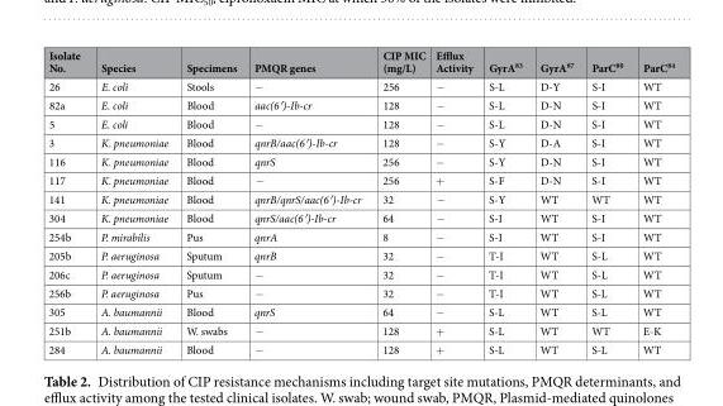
<table><thead><tr><td>Isolate No.</td><td>Species</td><td>Specimens</td><td>PMQR genes</td><td>CIP MIC (mg/L)</td><td>Efflux Activity</td><td>GyrA<sup>83</sup></td><td>GyrA<sup>87</sup></td><td>ParC<sup>80</sup></td><td>ParC<sup>84</sup></td></tr></thead><tbody><tr><td>26</td><td>E. coli</td><td>Stools</td><td>−</td><td>256</td><td>−</td><td>S-L</td><td>D-Y</td><td>S-I</td><td>WT</td></tr><tr><td>82a</td><td>E. coli</td><td>Blood</td><td>aac(6′)-Ib-cr</td><td>128</td><td>−</td><td>S-L</td><td>D-N</td><td>S-I</td><td>WT</td></tr><tr><td>5</td><td>E. coli</td><td>Blood</td><td>−</td><td>128</td><td>−</td><td>S-L</td><td>D-N</td><td>S-I</td><td>WT</td></tr><tr><td>3</td><td>K. pneumoniae</td><td>Blood</td><td>qnrB/aac(6′)-Ib-cr</td><td>128</td><td>−</td><td>S-Y</td><td>D-A</td><td>S-I</td><td>WT</td></tr><tr><td>116</td><td>K. pneumoniae</td><td>Blood</td><td>qnrS</td><td>256</td><td>−</td><td>S-Y</td><td>D-N</td><td>S-I</td><td>WT</td></tr><tr><td>117</td><td>K. pneumoniae</td><td>Blood</td><td>−</td><td>256</td><td>+</td><td>S-F</td><td>D-N</td><td>S-I</td><td>WT</td></tr><tr><td>141</td><td>K. pneumoniae</td><td>Blood</td><td>qnrB/qnrS/aac(6′)-Ib-cr</td><td>32</td><td>−</td><td>S-Y</td><td>WT</td><td>WT</td><td>WT</td></tr><tr><td>304</td><td>K. pneumoniae</td><td>Blood</td><td>qnrS/aac(6′)-Ib-cr</td><td>64</td><td>−</td><td>S-I</td><td>WT</td><td>S-I</td><td>WT</td></tr><tr><td>254b</td><td>P. mirabilis</td><td>Pus</td><td>qnrA</td><td>8</td><td>−</td><td>S-I</td><td>WT</td><td>S-I</td><td>WT</td></tr><tr><td>205b</td><td>P. aeruginosa</td><td>Sputum</td><td>qnrB</td><td>32</td><td>−</td><td>T-I</td><td>WT</td><td>S-L</td><td>WT</td></tr><tr><td>206c</td><td>P. aeruginosa</td><td>Sputum</td><td>−</td><td>32</td><td>−</td><td>T-I</td><td>WT</td><td>S-L</td><td>WT</td></tr><tr><td>256b</td><td>P. aeruginosa</td><td>Pus</td><td>−</td><td>32</td><td>−</td><td>T-I</td><td>WT</td><td>S-L</td><td>WT</td></tr><tr><td>305</td><td>A. baumannii</td><td>Blood</td><td>qnrS</td><td>64</td><td>−</td><td>S-L</td><td>WT</td><td>S-L</td><td>WT</td></tr><tr><td>251b</td><td>A. baumannii</td><td>W. swabs</td><td>−</td><td>128</td><td>+</td><td>S-L</td><td>WT</td><td>WT</td><td>E-K</td></tr><tr><td>284</td><td>A. baumannii</td><td>Blood</td><td>−</td><td>128</td><td>+</td><td>S-L</td><td>WT</td><td>S-L</td><td>WT</td></tr></tbody></table>